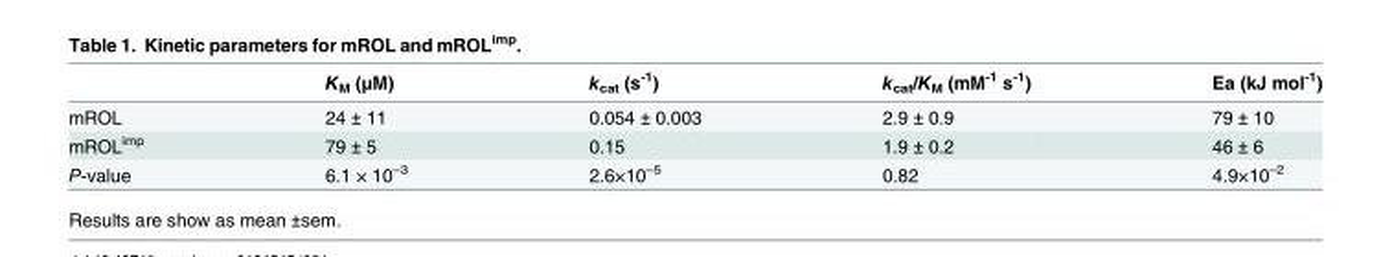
<table><thead><tr><td></td><td>K<sub>M</sub> (μM)</td><td>k<sub>cat</sub> (s<sup>-1</sup>)</td><td>k<sub>cat</sub>/K<sub>M</sub> (mM<sup>-1</sup> s<sup>-1</sup>)</td><td>Ea (kJ mol<sup>-1</sup>)</td></tr></thead><tbody><tr><td>mROL</td><td>24 ± 11</td><td>0.054 ± 0.003</td><td>2.9 ± 0.9</td><td>79 ± 10</td></tr><tr><td>mROL<sup>imp</sup></td><td>79 ± 5</td><td>0.15</td><td>1.9 ± 0.2</td><td>46 ± 6</td></tr><tr><td>P-value</td><td>6.1 × 10<sup>–3</sup></td><td>2.6×10<sup>–5</sup></td><td>0.82</td><td>4.9×10<sup>–2</sup></td></tr></tbody></table>